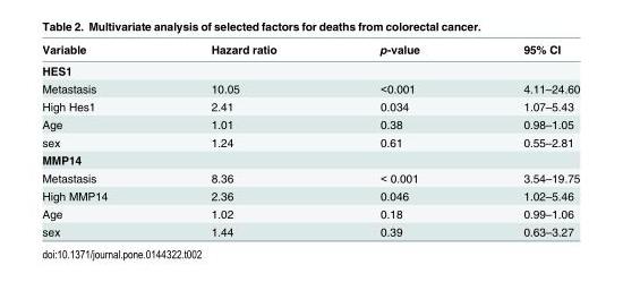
<table><thead><tr><td>Variable</td><td>Hazard ratio</td><td>p-value</td><td>95% CI</td></tr></thead><tbody><tr><td colspan="4">HES1</td></tr><tr><td>Metastasis</td><td>10.05</td><td>&lt;0.001</td><td>4.11–24.60</td></tr><tr><td>High Hes1</td><td>2.41</td><td>0.034</td><td>1.07–5.43</td></tr><tr><td>Age</td><td>1.01</td><td>0.38</td><td>0.98–1.05</td></tr><tr><td>sex</td><td>1.24</td><td>0.61</td><td>0.55–2.81</td></tr><tr><td colspan="4">MMP14</td></tr><tr><td>Metastasis</td><td>8.36</td><td>&lt; 0.001</td><td>3.54–19.75</td></tr><tr><td>High MMP14</td><td>2.36</td><td>0.046</td><td>1.02–5.46</td></tr><tr><td>Age</td><td>1.02</td><td>0.18</td><td>0.99–1.06</td></tr><tr><td>sex</td><td>1.44</td><td>0.39</td><td>0.63–3.27</td></tr></tbody></table>